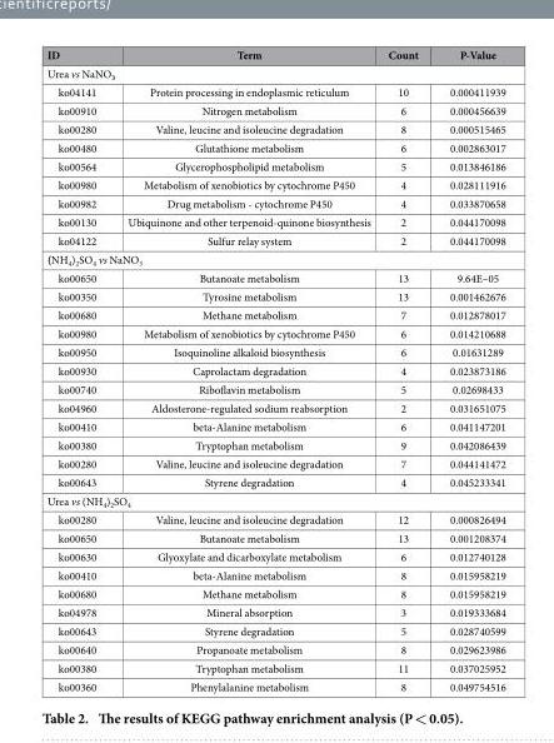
<table><thead><tr><td>ID</td><td>Term</td><td>Count</td><td>P-Value</td></tr></thead><tbody><tr><td colspan="4">Urea vs NaNO<sub>3</sub></td></tr><tr><td>ko04141</td><td>Protein processing in endoplasmic reticulum</td><td>10</td><td>0.000411939</td></tr><tr><td>ko00910</td><td>Nitrogen metabolism</td><td>6</td><td>0.000456639</td></tr><tr><td>ko00280</td><td>Valine, leucine and isoleucine degradation</td><td>8</td><td>0.000515465</td></tr><tr><td>ko00480</td><td>Glutathione metabolism</td><td>6</td><td>0.002863017</td></tr><tr><td>ko00564</td><td>Glycerophospholipid metabolism</td><td>5</td><td>0.013846186</td></tr><tr><td>ko00980</td><td>Metabolism of xenobiotics by cytochrome P450</td><td>4</td><td>0.028111916</td></tr><tr><td>ko00982</td><td>Drug metabolism - cytochrome P450</td><td>4</td><td>0.033870658</td></tr><tr><td>ko00130</td><td>Ubiquinone and other terpenoid-quinone biosynthesis</td><td>2</td><td>0.044170098</td></tr><tr><td>ko04122</td><td>Sulfur relay system</td><td>2</td><td>0.044170098</td></tr><tr><td colspan="4">(NH<sub>4</sub>)<sub>2</sub>SO<sub>4</sub> vs NaNO<sub>3</sub></td></tr><tr><td>ko00650</td><td>Butanoate metabolism</td><td>13</td><td>9.64E–05</td></tr><tr><td>ko00350</td><td>Tyrosine metabolism</td><td>13</td><td>0.001462676</td></tr><tr><td>ko00680</td><td>Methane metabolism</td><td>7</td><td>0.012878017</td></tr><tr><td>ko00980</td><td>Metabolism of xenobiotics by cytochrome P450</td><td>6</td><td>0.014210688</td></tr><tr><td>ko00950</td><td>Isoquinoline alkaloid biosynthesis</td><td>6</td><td>0.01631289</td></tr><tr><td>ko00930</td><td>Caprolactam degradation</td><td>4</td><td>0.023873186</td></tr><tr><td>ko00740</td><td>Riboflavin metabolism</td><td>5</td><td>0.02698433</td></tr><tr><td>ko04960</td><td>Aldosterone-regulated sodium reabsorption</td><td>2</td><td>0.031651075</td></tr><tr><td>ko00410</td><td>beta-Alanine metabolism</td><td>6</td><td>0.041147201</td></tr><tr><td>ko00380</td><td>Tryptophan metabolism</td><td>9</td><td>0.042086439</td></tr><tr><td>ko00280</td><td>Valine, leucine and isoleucine degradation</td><td>7</td><td>0.044141472</td></tr><tr><td>ko00643</td><td>Styrene degradation</td><td>4</td><td>0.045233341</td></tr><tr><td colspan="4">Urea vs (NH<sub>4</sub>)<sub>2</sub>SO4</td></tr><tr><td>ko00280</td><td>Valine, leucine and isoleucine degradation</td><td>12</td><td>0.000826494</td></tr><tr><td>ko00650</td><td>Butanoate metabolism</td><td>13</td><td>0.001208374</td></tr><tr><td>ko00630</td><td>Glyoxylate and dicarboxylate metabolism</td><td>6</td><td>0.012740128</td></tr><tr><td>ko00410</td><td>beta-Alanine metabolism</td><td>8</td><td>0.015958219</td></tr><tr><td>ko00680</td><td>Methane metabolism</td><td>8</td><td>0.015958219</td></tr><tr><td>ko04978</td><td>Mineral absorption</td><td>3</td><td>0.019333684</td></tr><tr><td>ko00643</td><td>Styrene degradation</td><td>5</td><td>0.028740599</td></tr><tr><td>ko00640</td><td>Propanoate metabolism</td><td>8</td><td>0.029623986</td></tr><tr><td>ko00380</td><td>Tryptophan metabolism</td><td>11</td><td>0.037025952</td></tr><tr><td>ko00360</td><td>Phenylalanine metabolism</td><td>8</td><td>0.049754516</td></tr></tbody></table>